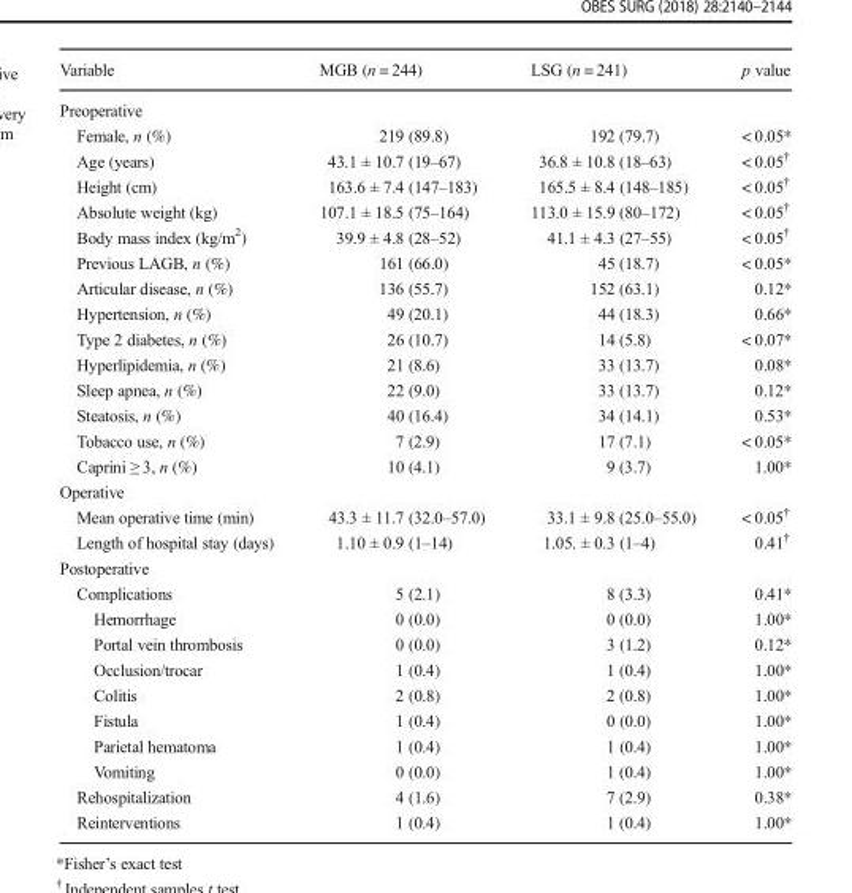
<table><thead><tr><td>Variable</td><td>MGB (n = 244)</td><td>LSG (n = 241)</td><td>p value</td></tr></thead><tbody><tr><td colspan="4">Preoperative</td></tr><tr><td>Female, n (%)</td><td>219 (89.8)</td><td>192 (79.7)</td><td>&lt; 0.05*</td></tr><tr><td>Age (years)</td><td>43.1 ± 10.7 (19–67)</td><td>36.8 ± 10.8 (18–63)</td><td>&lt; 0.05<sup>†</sup></td></tr><tr><td>Height (cm)</td><td>163.6 ± 7.4 (147–183)</td><td>165.5 ± 8.4 (148–185)</td><td>&lt; 0.05<sup>†</sup></td></tr><tr><td>Absolute weight (kg)</td><td>107.1 ± 18.5 (75–164)</td><td>113.0 ± 15.9 (80–172)</td><td>&lt; 0.05<sup>†</sup></td></tr><tr><td>Body mass index (kg/m<sup>2</sup>)</td><td>39.9 ± 4.8 (28–52)</td><td>41.1 ± 4.3 (27–55)</td><td>&lt; 0.05<sup>†</sup></td></tr><tr><td>Previous LAGB, n (%)</td><td>161 (66.0)</td><td>45 (18.7)</td><td>&lt; 0.05*</td></tr><tr><td>Articular disease, n (%)</td><td>136 (55.7)</td><td>152 (63.1)</td><td>0.12*</td></tr><tr><td>Hypertension, n (%)</td><td>49 (20.1)</td><td>44 (18.3)</td><td>0.66*</td></tr><tr><td>Type 2 diabetes, n (%)</td><td>26 (10.7)</td><td>14 (5.8)</td><td>&lt; 0.07*</td></tr><tr><td>Hyperlipidemia, n (%)</td><td>21 (8.6)</td><td>33 (13.7)</td><td>0.08*</td></tr><tr><td>Sleep apnea, n (%)</td><td>22 (9.0)</td><td>33 (13.7)</td><td>0.12*</td></tr><tr><td>Steatosis, n (%)</td><td>40 (16.4)</td><td>34 (14.1)</td><td>0.53*</td></tr><tr><td>Tobacco use, n (%)</td><td>7 (2.9)</td><td>17 (7.1)</td><td>&lt; 0.05*</td></tr><tr><td>Caprini ≥ 3, n (%)</td><td>10 (4.1)</td><td>9 (3.7)</td><td>1.00*</td></tr><tr><td colspan="4">Operative</td></tr><tr><td>Mean operative time (min)</td><td>43.3 ± 11.7 (32.0–57.0)</td><td>33.1 ± 9.8 (25.0–55.0)</td><td>&lt; 0.05<sup>†</sup></td></tr><tr><td>Length of hospital stay (days)</td><td>1.10 ± 0.9 (1–14)</td><td>1.05. ± 0.3 (1–4)</td><td>0.41<sup>†</sup></td></tr><tr><td colspan="4">Postoperative</td></tr><tr><td>Complications</td><td>5 (2.1)</td><td>8 (3.3)</td><td>0.41*</td></tr><tr><td>Hemorrhage</td><td>0 (0.0)</td><td>0 (0.0)</td><td>1.00*</td></tr><tr><td>Portal vein thrombosis</td><td>0 (0.0)</td><td>3 (1.2)</td><td>0.12*</td></tr><tr><td>Occlusion/trocar</td><td>1 (0.4)</td><td>1 (0.4)</td><td>1.00*</td></tr><tr><td>Colitis</td><td>2 (0.8)</td><td>2 (0.8)</td><td>1.00*</td></tr><tr><td>Fistula</td><td>1 (0.4)</td><td>0 (0.0)</td><td>1.00*</td></tr><tr><td>Parietal hematoma</td><td>1 (0.4)</td><td>1 (0.4)</td><td>1.00*</td></tr><tr><td>Vomiting</td><td>0 (0.0)</td><td>1 (0.4)</td><td>1.00*</td></tr><tr><td>Rehospitalization</td><td>4 (1.6)</td><td>7 (2.9)</td><td>0.38*</td></tr><tr><td>Reinterventions</td><td>1 (0.4)</td><td>1 (0.4)</td><td>1.00*</td></tr></tbody></table>